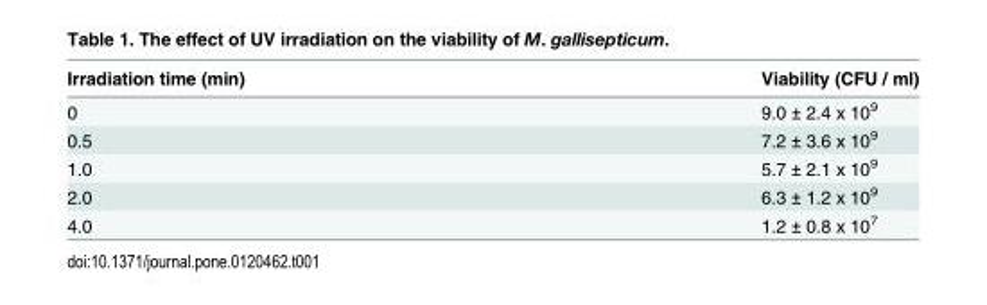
<table><thead><tr><td>Irradiation time (min)</td><td>Viability (CFU / ml)</td></tr></thead><tbody><tr><td>0</td><td>9.0 ± 2.4 x 10<sup>9</sup></td></tr><tr><td>0.5</td><td>7.2 ± 3.6 x 10<sup>9</sup></td></tr><tr><td>1.0</td><td>5.7 ± 2.1 x 10<sup>9</sup></td></tr><tr><td>2.0</td><td>6.3 ± 1.2 x 10<sup>9</sup></td></tr><tr><td>4.0</td><td>1.2 ± 0.8 x 10<sup>7</sup></td></tr></tbody></table>